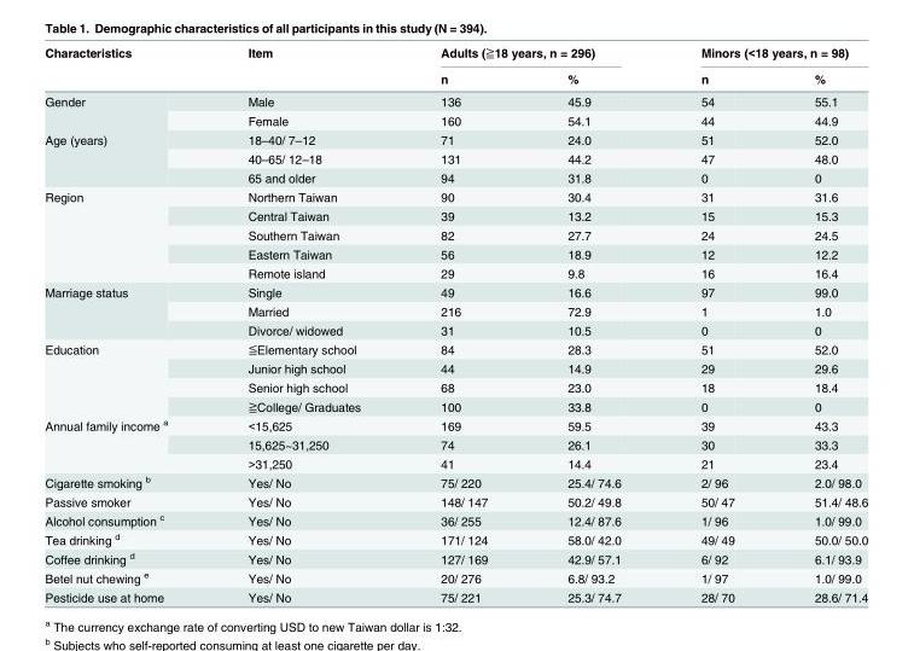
<table><thead><tr><td rowspan="2">Characteristics</td><td rowspan="2">Item</td><td colspan="2">Adults (≧18 years, n = 296)</td><td colspan="2">Minors (&lt;18 years, n = 98)</td></tr><tr><td>n</td><td>%</td><td>n</td><td>%</td></tr></thead><tbody><tr><td rowspan="2">Gender</td><td>Male</td><td>136</td><td>45.9</td><td>54</td><td>55.1</td></tr><tr><td>Female</td><td>160</td><td>54.1</td><td>44</td><td>44.9</td></tr><tr><td rowspan="3">Age (years)</td><td>18–40/ 7–12</td><td>71</td><td>24.0</td><td>51</td><td>52.0</td></tr><tr><td>40–65/ 12–18</td><td>131</td><td>44.2</td><td>47</td><td>48.0</td></tr><tr><td>65 and older</td><td>94</td><td>31.8</td><td>0</td><td>0</td></tr><tr><td rowspan="5">Region</td><td>Northern Taiwan</td><td>90</td><td>30.4</td><td>31</td><td>31.6</td></tr><tr><td>Central Taiwan</td><td>39</td><td>13.2</td><td>15</td><td>15.3</td></tr><tr><td>Southern Taiwan</td><td>82</td><td>27.7</td><td>24</td><td>24.5</td></tr><tr><td>Eastern Taiwan</td><td>56</td><td>18.9</td><td>12</td><td>12.2</td></tr><tr><td>Remote island</td><td>29</td><td>9.8</td><td>16</td><td>16.4</td></tr><tr><td rowspan="3">Marriage status</td><td>Single</td><td>49</td><td>16.6</td><td>97</td><td>99.0</td></tr><tr><td>Married</td><td>216</td><td>72.9</td><td>1</td><td>1.0</td></tr><tr><td>Divorce/ widowed</td><td>31</td><td>10.5</td><td>0</td><td>0</td></tr><tr><td rowspan="4">Education</td><td>≦Elementary school</td><td>84</td><td>28.3</td><td>51</td><td>52.0</td></tr><tr><td>Junior high school</td><td>44</td><td>14.9</td><td>29</td><td>29.6</td></tr><tr><td>Senior high school</td><td>68</td><td>23.0</td><td>18</td><td>18.4</td></tr><tr><td>≧College/ Graduates</td><td>100</td><td>33.8</td><td>0</td><td>0</td></tr><tr><td rowspan="3">Annual family income <sup>a</sup></td><td>&lt;15,625</td><td>169</td><td>59.5</td><td>39</td><td>43.3</td></tr><tr><td>15,625~31,250</td><td>74</td><td>26.1</td><td>30</td><td>33.3</td></tr><tr><td>&gt;31,250</td><td>41</td><td>14.4</td><td>21</td><td>23.4</td></tr><tr><td>Cigarette smoking <sup>b</sup></td><td>Yes/ No</td><td>75/ 220</td><td>25.4/ 74.6</td><td>2/ 96</td><td>2.0/ 98.0</td></tr><tr><td>Passive smoker</td><td>Yes/ No</td><td>148/ 147</td><td>50.2/ 49.8</td><td>50/ 47</td><td>51.4/ 48.6</td></tr><tr><td>Alcohol consumption <sup>c</sup></td><td>Yes/ No</td><td>36/ 255</td><td>12.4/ 87.6</td><td>1/ 96</td><td>1.0/ 99.0</td></tr><tr><td>Tea drinking <sup>d</sup></td><td>Yes/ No</td><td>171/ 124</td><td>58.0/ 42.0</td><td>49/ 49</td><td>50.0/ 50.0</td></tr><tr><td>Coffee drinking <sup>d</sup></td><td>Yes/ No</td><td>127/ 169</td><td>42.9/ 57.1</td><td>6/ 92</td><td>6.1/ 93.9</td></tr><tr><td>Betel nut chewing <sup>e</sup></td><td>Yes/ No</td><td>20/ 276</td><td>6.8/ 93.2</td><td>1/ 97</td><td>1.0/ 99.0</td></tr><tr><td>Pesticide use at home</td><td>Yes/ No</td><td>75/ 221</td><td>25.3/ 74.7</td><td>28/ 70</td><td>28.6/ 71.4</td></tr></tbody></table>